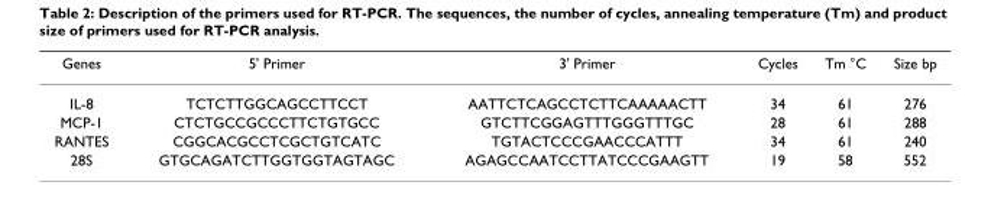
<table><thead><tr><td>Genes</td><td>5&#x27; Primer</td><td>3&#x27; Primer</td><td>Cycles</td><td>Tm °C</td><td>Size bp</td></tr></thead><tbody><tr><td>IL-8</td><td>TCTCTTGGCAGCCTTCCT</td><td>AATTCTCAGCCTCTTCAAAAACTT</td><td>34</td><td>61</td><td>276</td></tr><tr><td>MCP-1</td><td>CTCTGCCGCCCTTCTGTGCC</td><td>GTCTTCGGAGTTTGGGTTTGC</td><td>28</td><td>61</td><td>288</td></tr><tr><td>RANTES</td><td>CGGCACGCCTCGCTGTCATC</td><td>TGTACTCCCGAACCCATTT</td><td>34</td><td>61</td><td>240</td></tr><tr><td>28S</td><td>GTGCAGATCTTGGTGGTAGTAGC</td><td>AGAGCCAATCCTTATCCCGAAGTT</td><td>19</td><td>58</td><td>552</td></tr></tbody></table>